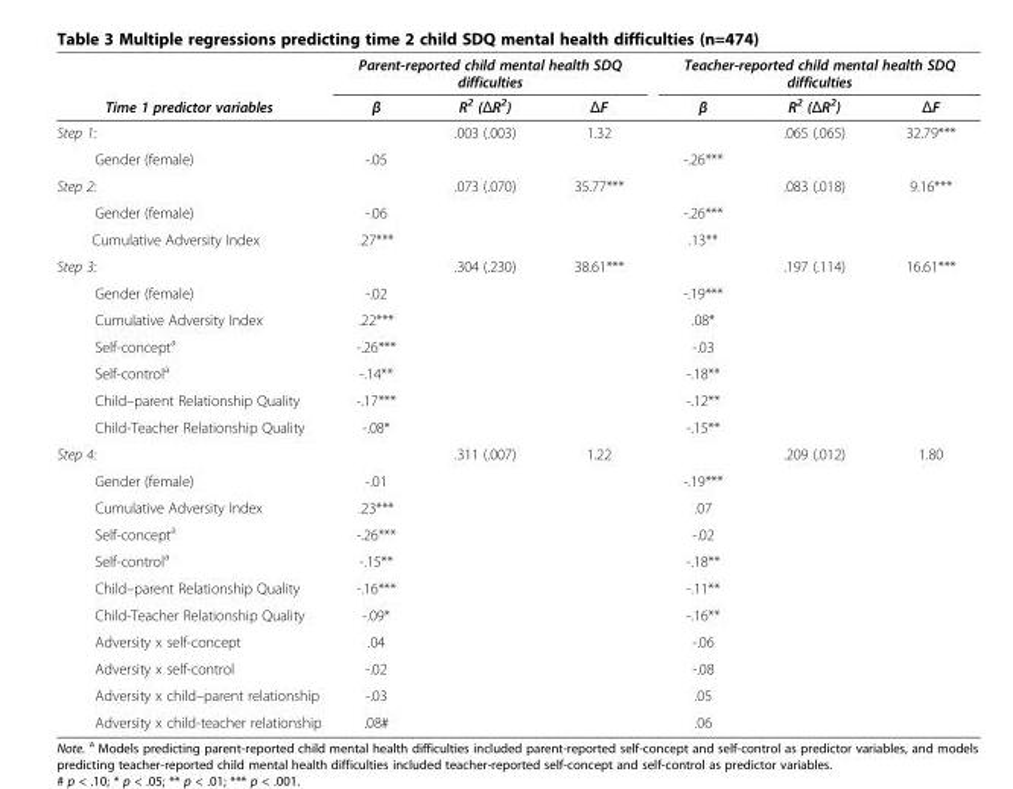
<table><thead><tr><td rowspan="2">Time 1 predictor variables</td><td colspan="3">Parent-reported child mental health SDQ difficulties</td><td colspan="3">Teacher-reported child mental health SDQ difficulties</td></tr><tr><td>β</td><td>R<sup>2</sup> (ΔR<sup>2</sup>)</td><td>ΔF</td><td>β</td><td>R<sup>2</sup> (ΔR<sup>2</sup>)</td><td>ΔF</td></tr></thead><tbody><tr><td>Step 1:</td><td></td><td>.003 (.003)</td><td>1.32</td><td></td><td>.065 (.065)</td><td>32.79***</td></tr><tr><td>Gender (female)</td><td>-.05</td><td></td><td></td><td>-.26***</td><td></td><td></td></tr><tr><td>Step 2:</td><td></td><td>.073 (.070)</td><td>35.77***</td><td></td><td>.083 (.018)</td><td>9.16***</td></tr><tr><td>Gender (female)</td><td>-.06</td><td></td><td></td><td>-.26***</td><td></td><td></td></tr><tr><td>Cumulative Adversity Index</td><td>.27***</td><td></td><td></td><td>.13**</td><td></td><td></td></tr><tr><td>Step 3:</td><td></td><td>.304 (.230)</td><td>38.61***</td><td></td><td>.197 (.114)</td><td>16.61***</td></tr><tr><td>Gender (female)</td><td>-.02</td><td></td><td></td><td>-.19***</td><td></td><td></td></tr><tr><td>Cumulative Adversity Index</td><td>.22***</td><td></td><td></td><td>.08*</td><td></td><td></td></tr><tr><td>Self-concept<sup>a</sup></td><td>-.26***</td><td></td><td></td><td>-.03</td><td></td><td></td></tr><tr><td>Self-control<sup>a</sup></td><td>-.14**</td><td></td><td></td><td>-.18**</td><td></td><td></td></tr><tr><td>Child–parent Relationship Quality</td><td>-.17***</td><td></td><td></td><td>-.12**</td><td></td><td></td></tr><tr><td>Child-Teacher Relationship Quality</td><td>-.08*</td><td></td><td></td><td>-.15**</td><td></td><td></td></tr><tr><td>Step 4:</td><td></td><td>.311 (.007)</td><td>1.22</td><td></td><td>.209 (.012)</td><td>1.80</td></tr><tr><td>Gender (female)</td><td>-.01</td><td></td><td></td><td>-.19***</td><td></td><td></td></tr><tr><td>Cumulative Adversity Index</td><td>.23***</td><td></td><td></td><td>.07</td><td></td><td></td></tr><tr><td>Self-concept<sup>a</sup></td><td>-.26***</td><td></td><td></td><td>-.02</td><td></td><td></td></tr><tr><td>Self-control<sup>a</sup></td><td>-.15**</td><td></td><td></td><td>-.18**</td><td></td><td></td></tr><tr><td>Child–parent Relationship Quality</td><td>-.16***</td><td></td><td></td><td>-.11**</td><td></td><td></td></tr><tr><td>Child-Teacher Relationship Quality</td><td>-.09*</td><td></td><td></td><td>-.16**</td><td></td><td></td></tr><tr><td>Adversity x self-concept</td><td>.04</td><td></td><td></td><td>-.06</td><td></td><td></td></tr><tr><td>Adversity x self-control</td><td>-.02</td><td></td><td></td><td>-.08</td><td></td><td></td></tr><tr><td>Adversity x child–parent relationship</td><td>-.03</td><td></td><td></td><td>.05</td><td></td><td></td></tr><tr><td>Adversity x child-teacher relationship</td><td>.08#</td><td></td><td></td><td>.06</td><td></td><td></td></tr></tbody></table>